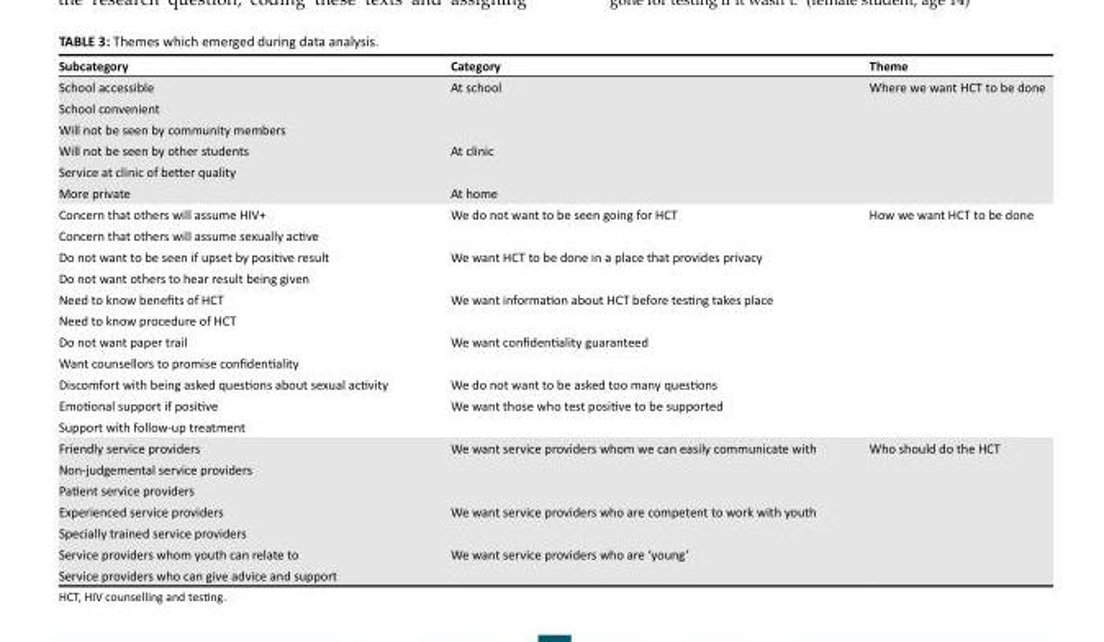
<table><thead><tr><td>Subcategory</td><td>Category</td><td>Theme</td></tr></thead><tbody><tr><td>School accessible</td><td>At school</td><td>Where we want HCT to be done</td></tr><tr><td colspan="3">School convenient</td></tr><tr><td colspan="3">Will not be seen by community members</td></tr><tr><td>Will not be seen by other students</td><td>At clinic</td><td></td></tr><tr><td colspan="3">Service at clinic of better quality</td></tr><tr><td>More private</td><td>At home</td><td></td></tr><tr><td>Concern that others will assume HIV+</td><td>We do not want to be seen going for HCT</td><td>How we want HCT to be done</td></tr><tr><td colspan="3">Concern that others will assume sexually active</td></tr><tr><td>Do not want to be seen if upset by positive result</td><td>We want HCT to be done in a place that provides privacy</td><td></td></tr><tr><td colspan="3">Do not want others to hear result being given</td></tr><tr><td>Need to know benefits of HCT</td><td>We want information about HCT before testing takes place</td><td></td></tr><tr><td colspan="3">Need to know procedure of HCT</td></tr><tr><td>Do not want paper trail</td><td>We want confidentiality guaranteed</td><td></td></tr><tr><td colspan="3">Want counsellors to promise confidentiality</td></tr><tr><td>Discomfort with being asked questions about sexual activity</td><td>We do not want to be asked too many questions</td><td></td></tr><tr><td>Emotional support if positive</td><td>We want those who test positive to be supported</td><td></td></tr><tr><td colspan="3">Support with follow-up treatment</td></tr><tr><td>Friendly service providers</td><td>We want service providers whom we can easily communicate with</td><td>Who should do the HCT</td></tr><tr><td colspan="3">Non-judgemental service providers</td></tr><tr><td colspan="3">Patient service providers</td></tr><tr><td>Experienced service providers</td><td>We want service providers who are competent to work with youth</td><td></td></tr><tr><td colspan="3">Specially trained service providers</td></tr><tr><td>Service providers whom youth can relate to</td><td>We want service providers who are ‘young’</td><td></td></tr><tr><td>Service providers who can give advice and support</td><td></td><td></td></tr></tbody></table>